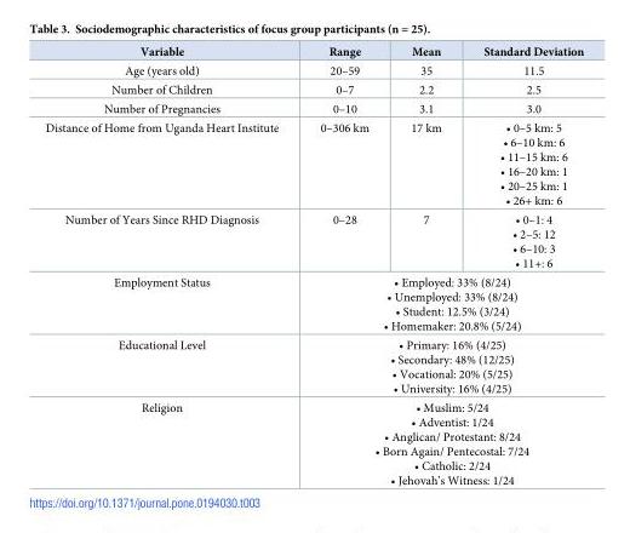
<table><thead><tr><td>Variable</td><td>Range</td><td>Mean</td><td>Standard Deviation</td></tr></thead><tbody><tr><td>Age (years old)</td><td>20–59</td><td>35</td><td>11.5</td></tr><tr><td>Number of Children</td><td>0–7</td><td>2.2</td><td>2.5</td></tr><tr><td>Number of Pregnancies</td><td>0–10</td><td>3.1</td><td>3.0</td></tr><tr><td>Distance of Home from Uganda Heart Institute</td><td>0–306 km</td><td>17 km</td><td>• 0–5 km: 5 • 6–10 km: 6 • 11–15 km: 6 • 16–20 km: 1 • 20–25 km: 1 • 26+ km: 6</td></tr><tr><td>Number of Years Since RHD Diagnosis</td><td>0–28</td><td>7</td><td>• 0–1: 4 • 2–5: 12 • 6–10: 3 • 11+: 6</td></tr><tr><td>Employment Status</td><td colspan="3">• Employed: 33% (8/24) • Unemployed: 33% (8/24) • Student: 12.5% (3/24) • Homemaker: 20.8% (5/24)</td></tr><tr><td>Educational Level</td><td colspan="3">• Primary: 16% (4/25) • Secondary: 48% (12/25) • Vocational: 20% (5/25) • University: 16% (4/25)</td></tr><tr><td>Religion</td><td colspan="3">• Muslim: 5/24 • Adventist: 1/24 • Anglican/ Protestant: 8/24 • Born Again/ Pentecostal: 7/24 • Catholic: 2/24 • Jehovah’s Witness: 1/24</td></tr></tbody></table>